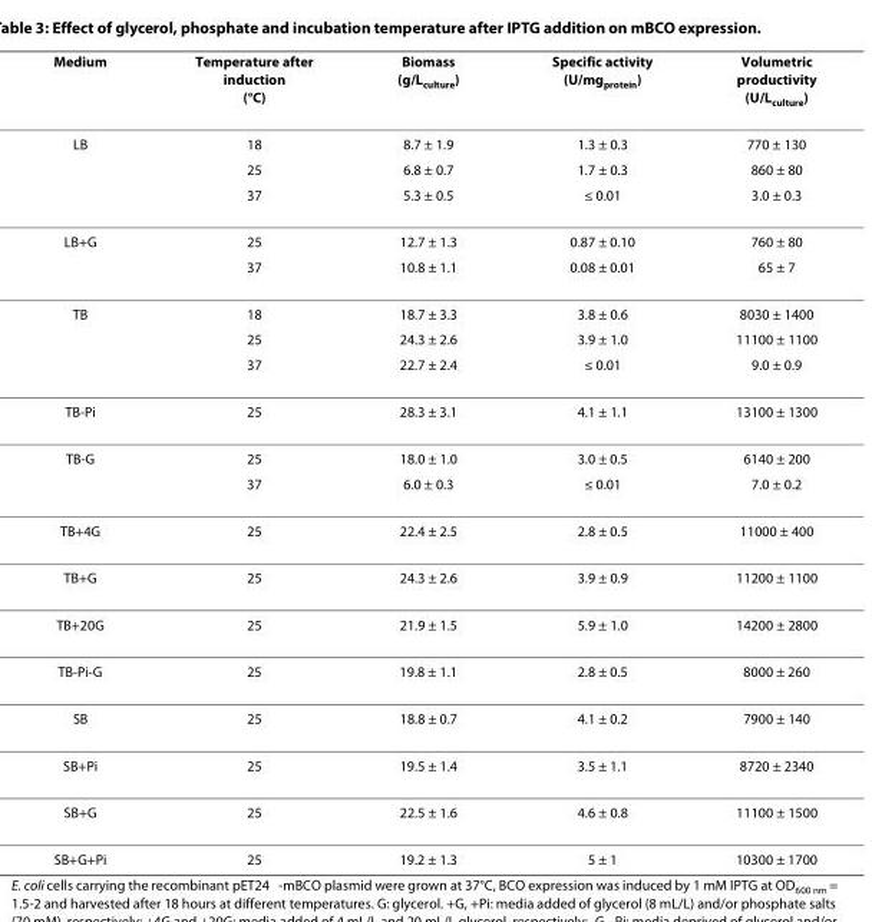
<table><thead><tr><td>Medium</td><td>Temperature after induction (°C)</td><td>Biomass (g/L<sub>culture</sub>)</td><td>Specific activity (U/mg<sub>protein</sub>)</td><td>Volumetric productivity (U/L<sub>culture</sub>)</td></tr></thead><tbody><tr><td rowspan="3">LB</td><td>18</td><td>8.7 ± 1.9</td><td>1.3 ± 0.3</td><td>770 ± 130</td></tr><tr><td>25</td><td>6.8 ± 0.7</td><td>1.7 ± 0.3</td><td>860 ± 80</td></tr><tr><td>37</td><td>5.3 ± 0.5</td><td>≤ 0.01</td><td>3.0 ± 0.3</td></tr><tr><td rowspan="2">LB+G</td><td>25</td><td>12.7 ± 1.3</td><td>0.87 ± 0.10</td><td>760 ± 80</td></tr><tr><td>37</td><td>10.8 ± 1.1</td><td>0.08 ± 0.01</td><td>65 ± 7</td></tr><tr><td rowspan="3">TB</td><td>18</td><td>18.7 ± 3.3</td><td>3.8 ± 0.6</td><td>8030 ± 1400</td></tr><tr><td>25</td><td>24.3 ± 2.6</td><td>3.9 ± 1.0</td><td>11100 ± 1100</td></tr><tr><td>37</td><td>22.7 ± 2.4</td><td>≤ 0.01</td><td>9.0 ± 0.9</td></tr><tr><td>TB-Pi</td><td>25</td><td>28.3 ± 3.1</td><td>4.1 ± 1.1</td><td>13100 ± 1300</td></tr><tr><td rowspan="2">TB-G</td><td>25</td><td>18.0 ± 1.0</td><td>3.0 ± 0.5</td><td>6140 ± 200</td></tr><tr><td>37</td><td>6.0 ± 0.3</td><td>≤ 0.01</td><td>7.0 ± 0.2</td></tr><tr><td>TB+4G</td><td>25</td><td>22.4 ± 2.5</td><td>2.8 ± 0.5</td><td>11000 ± 400</td></tr><tr><td>TB+G</td><td>25</td><td>24.3 ± 2.6</td><td>3.9 ± 0.9</td><td>11200 ± 1100</td></tr><tr><td>TB+20G</td><td>25</td><td>21.9 ± 1.5</td><td>5.9 ± 1.0</td><td>14200 ± 2800</td></tr><tr><td>TB-Pi-G</td><td>25</td><td>19.8 ± 1.1</td><td>2.8 ± 0.5</td><td>8000 ± 260</td></tr><tr><td>SB</td><td>25</td><td>18.8 ± 0.7</td><td>4.1 ± 0.2</td><td>7900 ± 140</td></tr><tr><td>SB+Pi</td><td>25</td><td>19.5 ± 1.4</td><td>3.5 ± 1.1</td><td>8720 ± 2340</td></tr><tr><td>SB+G</td><td>25</td><td>22.5 ± 1.6</td><td>4.6 ± 0.8</td><td>11100 ± 1500</td></tr><tr><td>SB+G+Pi</td><td>25</td><td>19.2 ± 1.3</td><td>5 ± 1</td><td>10300 ± 1700</td></tr></tbody></table>